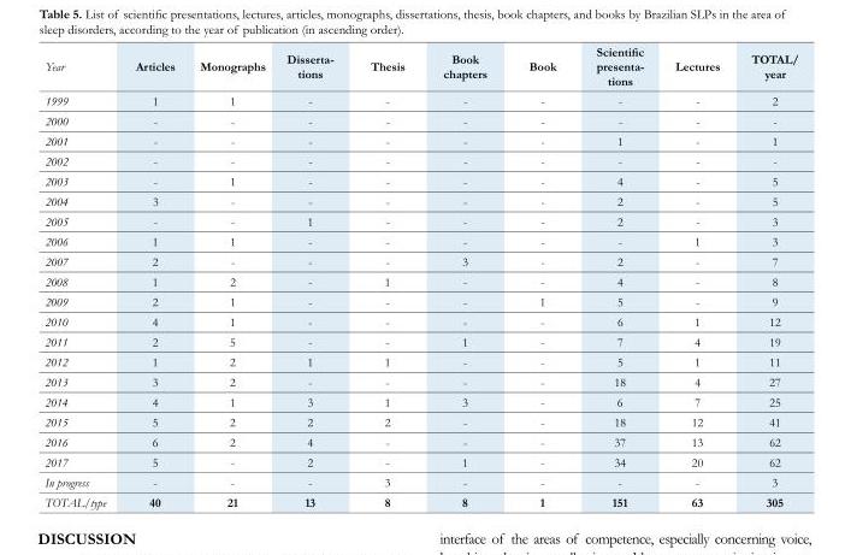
<table><thead><tr><td>Year</td><td>Articles</td><td>Monographs</td><td>Disserta- tions</td><td>Thesis</td><td>Book chapters</td><td>Book</td><td>Scientific presenta- tions</td><td>Lectures</td><td>TOTAL/ year</td></tr></thead><tbody><tr><td>1999</td><td>1</td><td>1</td><td>-</td><td>-</td><td>-</td><td>-</td><td>-</td><td>-</td><td>2</td></tr><tr><td>2000</td><td>-</td><td>-</td><td>-</td><td>-</td><td>-</td><td>-</td><td>-</td><td>-</td><td>-</td></tr><tr><td>2001</td><td>-</td><td>-</td><td>-</td><td>-</td><td>-</td><td>-</td><td>1</td><td>-</td><td>1</td></tr><tr><td>2002</td><td>-</td><td>-</td><td>-</td><td>-</td><td>-</td><td>-</td><td>-</td><td>-</td><td>-</td></tr><tr><td>2003</td><td>-</td><td>1</td><td>-</td><td>-</td><td>-</td><td>-</td><td>4</td><td>-</td><td>5</td></tr><tr><td>2004</td><td>3</td><td>-</td><td>-</td><td>-</td><td>-</td><td>-</td><td>2</td><td>-</td><td>5</td></tr><tr><td>2005</td><td>-</td><td>-</td><td>1</td><td>-</td><td>-</td><td>-</td><td>2</td><td>-</td><td>3</td></tr><tr><td>2006</td><td>1</td><td>1</td><td>-</td><td>-</td><td>-</td><td>-</td><td>-</td><td>1</td><td>3</td></tr><tr><td>2007</td><td>2</td><td>-</td><td>-</td><td>-</td><td>3</td><td>-</td><td>2</td><td>-</td><td>7</td></tr><tr><td>2008</td><td>1</td><td>2</td><td>-</td><td>1</td><td>-</td><td>-</td><td>4</td><td>-</td><td>8</td></tr><tr><td>2009</td><td>2</td><td>1</td><td>-</td><td>-</td><td>-</td><td>1</td><td>5</td><td>-</td><td>9</td></tr><tr><td>2010</td><td>4</td><td>1</td><td>-</td><td>-</td><td>-</td><td>-</td><td>6</td><td>1</td><td>12</td></tr><tr><td>2011</td><td>2</td><td>5</td><td>-</td><td>-</td><td>1</td><td>-</td><td>7</td><td>4</td><td>19</td></tr><tr><td>2012</td><td>1</td><td>2</td><td>1</td><td>1</td><td>-</td><td>-</td><td>5</td><td>1</td><td>11</td></tr><tr><td>2013</td><td>3</td><td>2</td><td>-</td><td>-</td><td>-</td><td>-</td><td>18</td><td>4</td><td>27</td></tr><tr><td>2014</td><td>4</td><td>1</td><td>3</td><td>1</td><td>3</td><td>-</td><td>6</td><td>7</td><td>25</td></tr><tr><td>2015</td><td>5</td><td>2</td><td>2</td><td>2</td><td>-</td><td>-</td><td>18</td><td>12</td><td>41</td></tr><tr><td>2016</td><td>6</td><td>2</td><td>4</td><td>-</td><td>-</td><td>-</td><td>37</td><td>13</td><td>62</td></tr><tr><td>2017</td><td>5</td><td>-</td><td>2</td><td>-</td><td>1</td><td>-</td><td>34</td><td>20</td><td>62</td></tr><tr><td>In progress</td><td>-</td><td>-</td><td>-</td><td>3</td><td>-</td><td>-</td><td>-</td><td>-</td><td>3</td></tr><tr><td>TOTAL/type</td><td>40</td><td>21</td><td>13</td><td>8</td><td>8</td><td>1</td><td>151</td><td>63</td><td>305</td></tr></tbody></table>